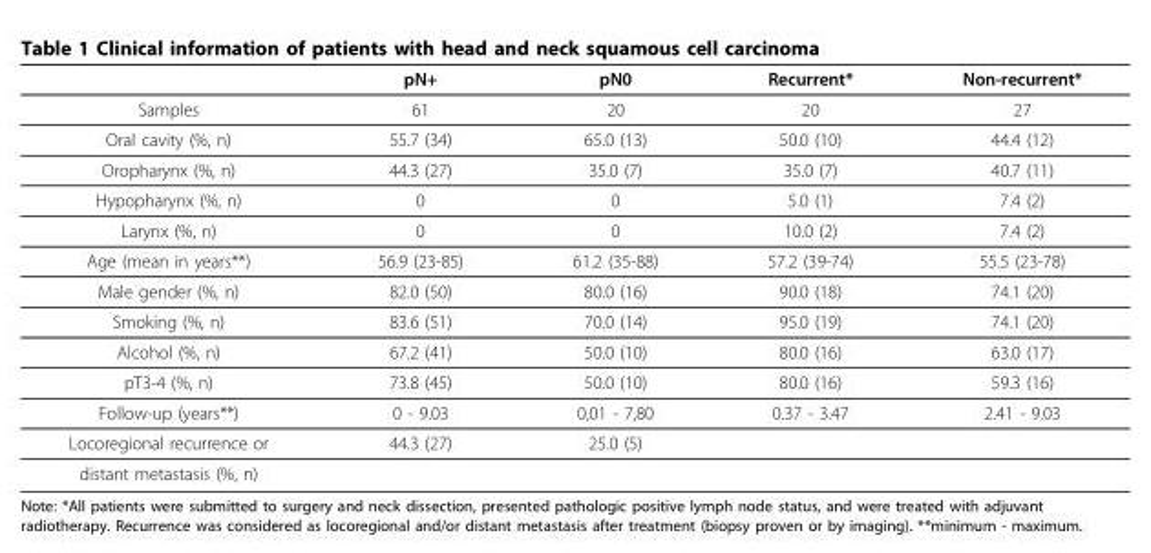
<table><thead><tr><td></td><td>pN+</td><td>pN0</td><td>Recurrent*</td><td>Non-recurrent*</td></tr></thead><tbody><tr><td>Samples</td><td>61</td><td>20</td><td>20</td><td>27</td></tr><tr><td>Oral cavity (%, n)</td><td>55.7 (34)</td><td>65.0 (13)</td><td>50.0 (10)</td><td>44.4 (12)</td></tr><tr><td>Oropharynx (%, n)</td><td>44.3 (27)</td><td>35.0 (7)</td><td>35.0 (7)</td><td>40.7 (11)</td></tr><tr><td>Hypopharynx (%, n)</td><td>0</td><td>0</td><td>5.0 (1)</td><td>7.4 (2)</td></tr><tr><td>Larynx (%, n)</td><td>0</td><td>0</td><td>10.0 (2)</td><td>7.4 (2)</td></tr><tr><td>Age (mean in years**)</td><td>56.9 (23-85)</td><td>61.2 (35-88)</td><td>57.2 (39-74)</td><td>55.5 (23-78)</td></tr><tr><td>Male gender (%, n)</td><td>82.0 (50)</td><td>80.0 (16)</td><td>90.0 (18)</td><td>74.1 (20)</td></tr><tr><td>Smoking (%, n)</td><td>83.6 (51)</td><td>70.0 (14)</td><td>95.0 (19)</td><td>74.1 (20)</td></tr><tr><td>Alcohol (%, n)</td><td>67.2 (41)</td><td>50.0 (10)</td><td>80.0 (16)</td><td>63.0 (17)</td></tr><tr><td>pT3-4 (%, n)</td><td>73.8 (45)</td><td>50.0 (10)</td><td>80.0 (16)</td><td>59.3 (16)</td></tr><tr><td>Follow-up (years**)</td><td>0 - 9.03</td><td>0,01 - 7,80</td><td>0.37 - 3.47</td><td>2.41 - 9.03</td></tr><tr><td>Locoregional recurrence or</td><td>44.3 (27)</td><td>25.0 (5)</td><td></td><td></td></tr><tr><td>distant metastasis (%, n)</td><td></td><td></td><td></td><td></td></tr></tbody></table>